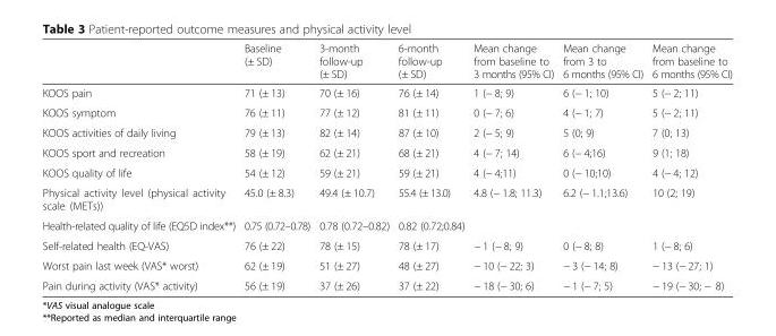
<table><thead><tr><td></td><td>Baseline (± SD)</td><td>3-month follow-up (± SD)</td><td>6-month follow-up (± SD)</td><td>Mean change from baseline to 3 months (95% CI)</td><td>Mean change from 3 to 6 months (95% CI)</td><td>Mean change from baseline to 6 months (95% CI)</td></tr></thead><tbody><tr><td>KOOS pain</td><td>71 (± 13)</td><td>70 (± 16)</td><td>76 (± 14)</td><td>1 (− 8; 9)</td><td>6 (− 1; 10)</td><td>5 (− 2; 11)</td></tr><tr><td>KOOS symptom</td><td>76 (± 11)</td><td>77 (± 12)</td><td>81 (± 11)</td><td>0 (− 7; 6)</td><td>4 (− 1; 7)</td><td>5 (− 2; 11)</td></tr><tr><td>KOOS activities of daily living</td><td>79 (± 13)</td><td>82 (± 14)</td><td>87 (± 10)</td><td>2 (− 5; 9)</td><td>5 (0; 9)</td><td>7 (0; 13)</td></tr><tr><td>KOOS sport and recreation</td><td>58 (± 19)</td><td>62 (± 21)</td><td>68 (± 21)</td><td>4 (− 7; 14)</td><td>6 (− 4;16)</td><td>9 (1; 18)</td></tr><tr><td>KOOS quality of life</td><td>54 (± 12)</td><td>59 (± 21)</td><td>59 (± 21)</td><td>4 (− 4;11)</td><td>0 (− 10;10)</td><td>4 (− 4; 12)</td></tr><tr><td>Physical activity level (physical activity scale (METs))</td><td>45.0 (± 8.3)</td><td>49.4 (± 10.7)</td><td>55.4 (± 13.0)</td><td>4.8 (− 1.8; 11.3)</td><td>6.2 (− 1.1;13.6)</td><td>10 (2; 19)</td></tr><tr><td>Health-related quality of life (EQ5D index**)</td><td>0.75 (0.72–0.78)</td><td>0.78 (0.72–0.82)</td><td>0.82 (0.72;0.84)</td><td></td><td></td><td></td></tr><tr><td>Self-related health (EQ-VAS)</td><td>76 (± 22)</td><td>78 (± 15)</td><td>78 (± 17)</td><td>− 1 (− 8; 9)</td><td>0 (− 8; 8)</td><td>1 (− 8; 6)</td></tr><tr><td>Worst pain last week (VAS* worst)</td><td>62 (± 19)</td><td>51 (± 27)</td><td>48 (± 27)</td><td>− 10 (− 22; 3)</td><td>− 3 (− 14; 8)</td><td>− 13 (− 27; 1)</td></tr><tr><td>Pain during activity (VAS* activity)</td><td>56 (± 19)</td><td>37 (± 26)</td><td>37 (± 22)</td><td>− 18 (− 30; 6)</td><td>− 1 (− 7; 5)</td><td>− 19 (− 30; − 8)</td></tr></tbody></table>